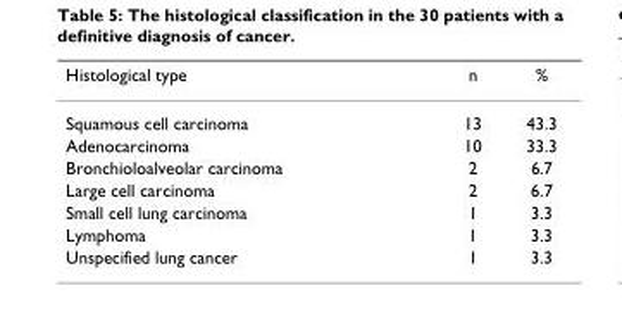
<table><thead><tr><td>Histological type</td><td>n</td><td>%</td></tr></thead><tbody><tr><td>Squamous cell carcinoma</td><td>13</td><td>43.3</td></tr><tr><td>Adenocarcinoma</td><td>10</td><td>33.3</td></tr><tr><td>Bronchioloalveolar carcinoma</td><td>2</td><td>6.7</td></tr><tr><td>Large cell carcinoma</td><td>2</td><td>6.7</td></tr><tr><td>Small cell lung carcinoma</td><td>1</td><td>3.3</td></tr><tr><td>Lymphoma</td><td>1</td><td>3.3</td></tr><tr><td>Unspecified lung cancer</td><td>1</td><td>3.3</td></tr></tbody></table>